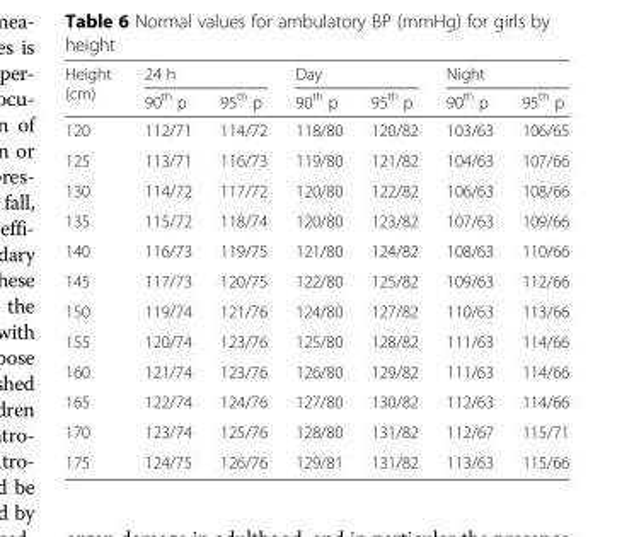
<table><thead><tr><td rowspan="2">Height (cm)</td><td colspan="2">24 h</td><td colspan="2">Day</td><td colspan="2">Night</td></tr><tr><td>90<sup>th</sup> p</td><td>95<sup>th</sup> p</td><td>90<sup>th</sup> p</td><td>95<sup>th</sup> p</td><td>90<sup>th</sup> p</td><td>95<sup>th</sup> p</td></tr></thead><tbody><tr><td>120</td><td>112/71</td><td>114/72</td><td>118/80</td><td>120/82</td><td>103/63</td><td>106/65</td></tr><tr><td>125</td><td>113/71</td><td>116/73</td><td>119/80</td><td>121/82</td><td>104/63</td><td>107/66</td></tr><tr><td>130</td><td>114/72</td><td>117/72</td><td>120/80</td><td>122/82</td><td>106/63</td><td>108/66</td></tr><tr><td>135</td><td>115/72</td><td>118/74</td><td>120/80</td><td>123/82</td><td>107/63</td><td>109/66</td></tr><tr><td>140</td><td>116/73</td><td>119/75</td><td>121/80</td><td>124/82</td><td>108/63</td><td>110/66</td></tr><tr><td>145</td><td>117/73</td><td>120/75</td><td>122/80</td><td>125/82</td><td>109/63</td><td>112/66</td></tr><tr><td>150</td><td>119/74</td><td>121/76</td><td>124/80</td><td>127/82</td><td>110/63</td><td>113/66</td></tr><tr><td>155</td><td>120/74</td><td>123/76</td><td>125/80</td><td>128/82</td><td>111/63</td><td>114/66</td></tr><tr><td>160</td><td>121/74</td><td>123/76</td><td>126/80</td><td>129/82</td><td>111/63</td><td>114/66</td></tr><tr><td>165</td><td>122/74</td><td>124/76</td><td>127/80</td><td>130/82</td><td>112/63</td><td>114/66</td></tr><tr><td>170</td><td>123/74</td><td>125/76</td><td>128/80</td><td>131/82</td><td>112/67</td><td>115/71</td></tr><tr><td>175</td><td>124/75</td><td>126/76</td><td>129/81</td><td>131/82</td><td>113/63</td><td>115/66</td></tr></tbody></table>